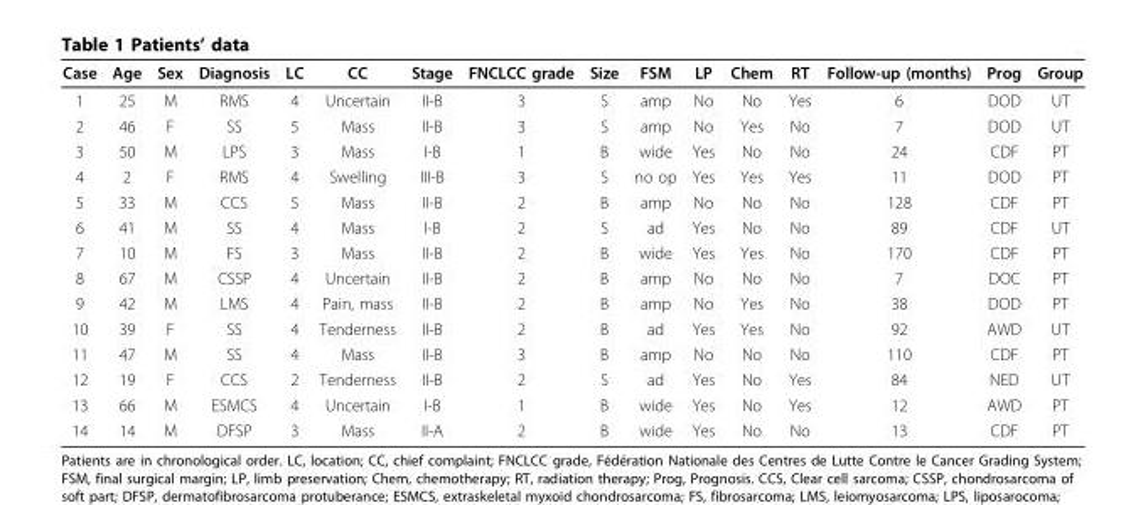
<table><thead><tr><td>Case</td><td>Age</td><td>Sex</td><td>Diagnosis</td><td>LC</td><td>CC</td><td>Stage</td><td>FNCLCC grade</td><td>Size</td><td>FSM</td><td>LP</td><td>Chem</td><td>RT</td><td>Follow-up (months)</td><td>Prog</td><td>Group</td></tr></thead><tbody><tr><td>1</td><td>25</td><td>M</td><td>RMS</td><td>4</td><td>Uncertain</td><td>II-B</td><td>3</td><td>S</td><td>amp</td><td>No</td><td>No</td><td>Yes</td><td>6</td><td>DOD</td><td>UT</td></tr><tr><td>2</td><td>46</td><td>F</td><td>SS</td><td>5</td><td>Mass</td><td>II-B</td><td>3</td><td>S</td><td>amp</td><td>No</td><td>Yes</td><td>No</td><td>7</td><td>DOD</td><td>UT</td></tr><tr><td>3</td><td>50</td><td>M</td><td>LPS</td><td>3</td><td>Mass</td><td>I-B</td><td>1</td><td>B</td><td>wide</td><td>Yes</td><td>No</td><td>No</td><td>24</td><td>CDF</td><td>PT</td></tr><tr><td>4</td><td>2</td><td>F</td><td>RMS</td><td>4</td><td>Swelling</td><td>III-B</td><td>3</td><td>S</td><td>no op</td><td>Yes</td><td>Yes</td><td>Yes</td><td>11</td><td>DOD</td><td>PT</td></tr><tr><td>5</td><td>33</td><td>M</td><td>CCS</td><td>5</td><td>Mass</td><td>II-B</td><td>2</td><td>B</td><td>amp</td><td>No</td><td>No</td><td>No</td><td>128</td><td>CDF</td><td>PT</td></tr><tr><td>6</td><td>41</td><td>M</td><td>SS</td><td>4</td><td>Mass</td><td>I-B</td><td>2</td><td>S</td><td>ad</td><td>Yes</td><td>No</td><td>No</td><td>89</td><td>CDF</td><td>UT</td></tr><tr><td>7</td><td>10</td><td>M</td><td>FS</td><td>3</td><td>Mass</td><td>II-B</td><td>2</td><td>B</td><td>wide</td><td>Yes</td><td>Yes</td><td>No</td><td>170</td><td>CDF</td><td>PT</td></tr><tr><td>8</td><td>67</td><td>M</td><td>CSSP</td><td>4</td><td>Uncertain</td><td>II-B</td><td>2</td><td>B</td><td>amp</td><td>No</td><td>No</td><td>No</td><td>7</td><td>DOC</td><td>PT</td></tr><tr><td>9</td><td>42</td><td>M</td><td>LMS</td><td>4</td><td>Pain, mass</td><td>II-B</td><td>2</td><td>B</td><td>amp</td><td>No</td><td>Yes</td><td>No</td><td>38</td><td>DOD</td><td>PT</td></tr><tr><td>10</td><td>39</td><td>F</td><td>SS</td><td>4</td><td>Tenderness</td><td>II-B</td><td>2</td><td>B</td><td>ad</td><td>Yes</td><td>Yes</td><td>No</td><td>92</td><td>AWD</td><td>UT</td></tr><tr><td>11</td><td>47</td><td>M</td><td>SS</td><td>4</td><td>Mass</td><td>II-B</td><td>3</td><td>B</td><td>amp</td><td>No</td><td>No</td><td>No</td><td>110</td><td>CDF</td><td>PT</td></tr><tr><td>12</td><td>19</td><td>F</td><td>CCS</td><td>2</td><td>Tenderness</td><td>II-B</td><td>2</td><td>S</td><td>ad</td><td>Yes</td><td>No</td><td>Yes</td><td>84</td><td>NED</td><td>UT</td></tr><tr><td>13</td><td>66</td><td>M</td><td>ESMCS</td><td>4</td><td>Uncertain</td><td>I-B</td><td>1</td><td>B</td><td>wide</td><td>Yes</td><td>No</td><td>Yes</td><td>12</td><td>AWD</td><td>PT</td></tr><tr><td>14</td><td>14</td><td>M</td><td>DFSP</td><td>3</td><td>Mass</td><td>II-A</td><td>2</td><td>B</td><td>wide</td><td>Yes</td><td>No</td><td>No</td><td>13</td><td>CDF</td><td>PT</td></tr></tbody></table>